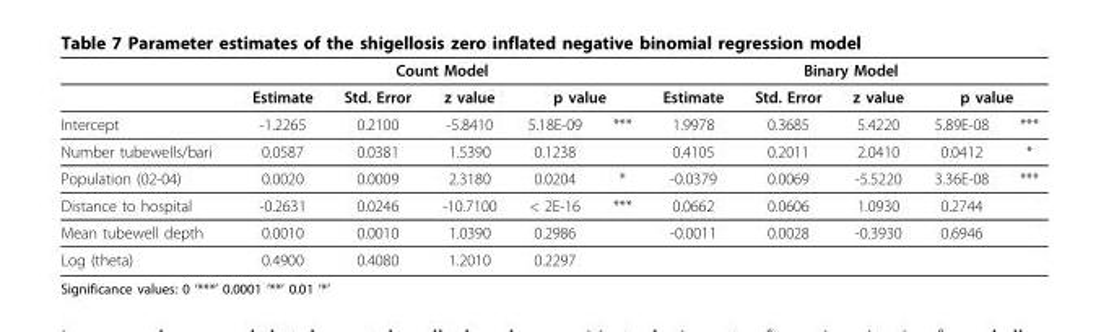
<table><thead><tr><td rowspan="3">Intercept</td><td colspan="5">Count Model</td><td colspan="5">Binary Model</td></tr><tr><td rowspan="2">Estimate -1.2265</td><td rowspan="2">Std. Error 0.2100</td><td rowspan="2">z value -5.8410</td><td colspan="2">p value</td><td rowspan="2">Estimate 1.9978</td><td rowspan="2">Std. Error 0.3685</td><td rowspan="2">z value 5.4220</td><td colspan="2">p value</td></tr><tr><td>5.18E-09</td><td>***</td><td>5.89E-08</td><td>***</td></tr></thead><tbody><tr><td>Number tubewells/bari</td><td>0.0587</td><td>0.0381</td><td>1.5390</td><td>0.1238</td><td></td><td>0.4105</td><td>0.2011</td><td>2.0410</td><td>0.0412</td><td>*</td></tr><tr><td>Population (02-04)</td><td>0.0020</td><td>0.0009</td><td>2.3180</td><td>0.0204</td><td>*</td><td>-0.0379</td><td>0.0069</td><td>-5.5220</td><td>3.36E-08</td><td>***</td></tr><tr><td>Distance to hospital</td><td>-0.2631</td><td>0.0246</td><td>-10.7100</td><td>&lt; 2E-16</td><td>***</td><td>0.0662</td><td>0.0606</td><td>1.0930</td><td>0.2744</td><td></td></tr><tr><td>Mean tubewell depth</td><td>0.0010</td><td>0.0010</td><td>1.0390</td><td>0.2986</td><td></td><td>-0.0011</td><td>0.0028</td><td>-0.3930</td><td>0.6946</td><td></td></tr><tr><td>Log (theta)</td><td>0.4900</td><td>0.4080</td><td>1.2010</td><td>0.2297</td><td></td><td></td><td></td><td></td><td></td><td></td></tr></tbody></table>